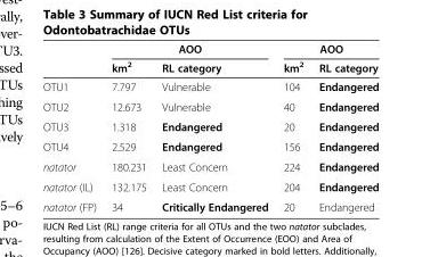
<table><thead><tr><td rowspan="2"></td><td colspan="2">AOO</td><td colspan="2">AOO</td></tr><tr><td>km<sup>2</sup></td><td>RL category</td><td>km<sup>2</sup></td><td>RL category</td></tr></thead><tbody><tr><td>OTU1</td><td>7.797</td><td>Vulnerable</td><td>104</td><td>Endangered</td></tr><tr><td>OTU2</td><td>12.673</td><td>Vulnerable</td><td>40</td><td>Endangered</td></tr><tr><td>OTU3</td><td>1.318</td><td>Endangered</td><td>20</td><td>Endangered</td></tr><tr><td>OTU4</td><td>2.529</td><td>Endangered</td><td>156</td><td>Endangered</td></tr><tr><td>natator</td><td>180.231</td><td>Least Concern</td><td>224</td><td>Endangered</td></tr><tr><td>natator (IL)</td><td>132.175</td><td>Least Concern</td><td>204</td><td>Endangered</td></tr><tr><td>natator (FP)</td><td>34</td><td>Critically Endangered</td><td>20</td><td>Endangered</td></tr></tbody></table>